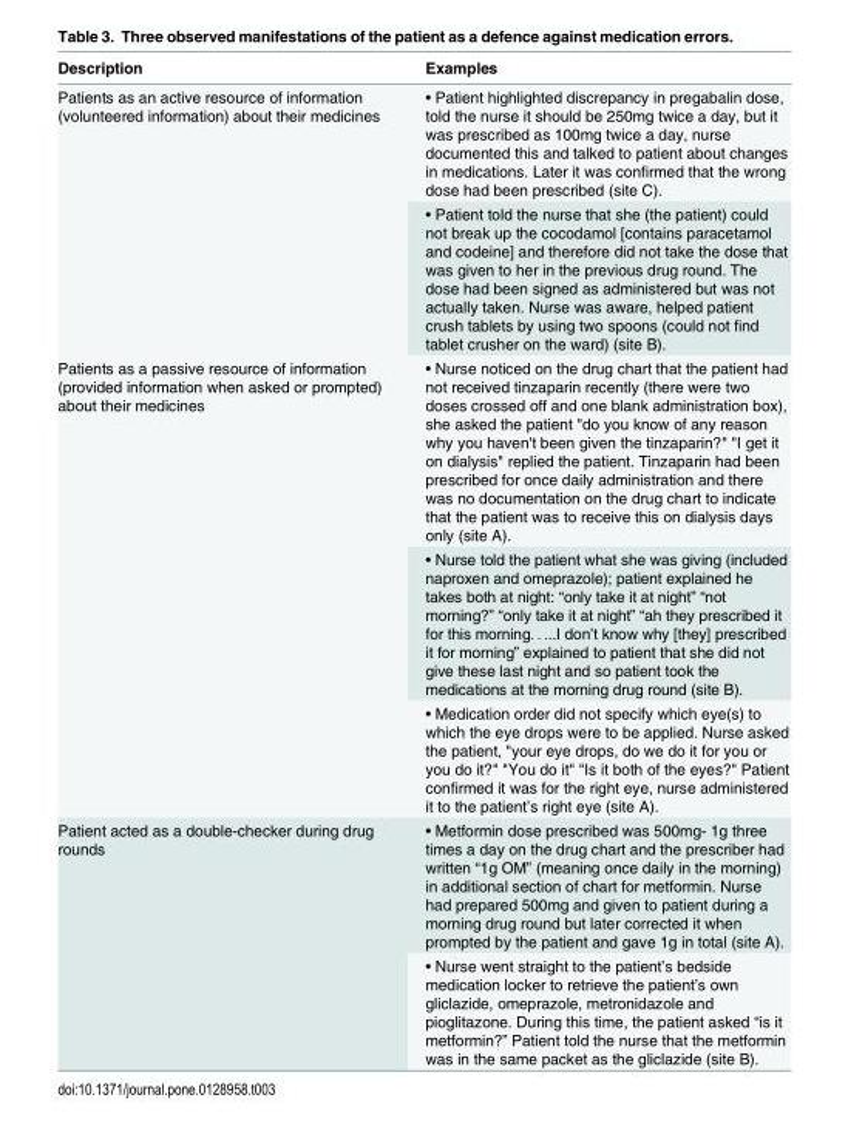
<table><thead><tr><td>Description</td><td>Examples</td></tr></thead><tbody><tr><td rowspan="2">Patients as an active resource of information (volunteered information) about their medicines</td><td>• Patient highlighted discrepancy in pregabalin dose, told the nurse it should be 250mg twice a day, but it was prescribed as 100mg twice a day, nurse documented this and talked to patient about changes in medications. Later it was confirmed that the wrong dose had been prescribed (site C).</td></tr><tr><td>• Patient told the nurse that she (the patient) could not break up the cocodamol [contains paracetamol and codeine] and therefore did not take the dose that was given to her in the previous drug round. The dose had been signed as administered but was not actually taken. Nurse was aware, helped patient crush tablets by using two spoons (could not find tablet crusher on the ward) (site B).</td></tr><tr><td rowspan="3">Patients as a passive resource of information (provided information when asked or prompted) about their medicines</td><td>• Nurse noticed on the drug chart that the patient had not received tinzaparin recently (there were two doses crossed off and one blank administration box), she asked the patient &quot;do you know of any reason why you haven&#x27;t been given the tinzaparin?&quot; &quot;I get it on dialysis&quot; replied the patient. Tinzaparin had been prescribed for once daily administration and there was no documentation on the drug chart to indicate that the patient was to receive this on dialysis days only (site A).</td></tr><tr><td>• Nurse told the patient what she was giving (included naproxen and omeprazole); patient explained he takes both at night: “only take it at night” “not morning?” “only take it at night” “ah they prescribed it for this morning. . ...I don’t know why [they] prescribed it for morning” explained to patient that she did not give these last night and so patient took the medications at the morning drug round (site B).</td></tr><tr><td>• Medication order did not specify which eye(s) to which the eye drops were to be applied. Nurse asked the patient, &quot;your eye drops, do we do it for you or you do it?&quot; &quot;You do it&quot; &quot;Is it both of the eyes?&quot; Patient confirmed it was for the right eye, nurse administered it to the patient’s right eye (site A).</td></tr><tr><td rowspan="2">Patient acted as a double-checker during drug rounds</td><td>• Metformin dose prescribed was 500mg- 1g three times a day on the drug chart and the prescriber had written “1g OM” (meaning once daily in the morning) in additional section of chart for metformin. Nurse had prepared 500mg and given to patient during a morning drug round but later corrected it when prompted by the patient and gave 1g in total (site A).</td></tr><tr><td>• Nurse went straight to the patient’s bedside medication locker to retrieve the patient’s own gliclazide, omeprazole, metronidazole and pioglitazone. During this time, the patient asked “is it metformin?” Patient told the nurse that the metformin was in the same packet as the gliclazide (site B).</td></tr></tbody></table>